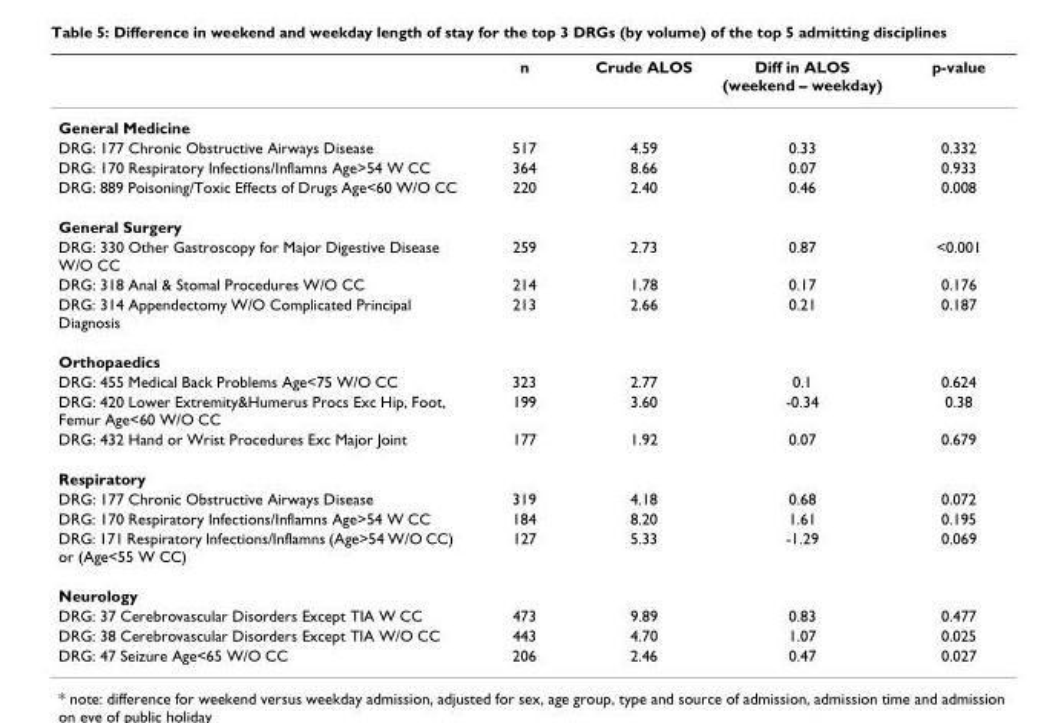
<table><thead><tr><td></td><td>n</td><td>Crude ALOS</td><td>Diff in ALOS (weekend – weekday)</td><td>p-value</td></tr></thead><tbody><tr><td colspan="5">General Medicine</td></tr><tr><td>DRG: 177 Chronic Obstructive Airways Disease</td><td>517</td><td>4.59</td><td>0.33</td><td>0.332</td></tr><tr><td>DRG: 170 Respiratory Infections/Inflamns Age&gt;54 W CC</td><td>364</td><td>8.66</td><td>0.07</td><td>0.933</td></tr><tr><td>DRG: 889 Poisoning/Toxic Effects of Drugs Age&lt;60 W/O CC</td><td>220</td><td>2.40</td><td>0.46</td><td>0.008</td></tr><tr><td colspan="5">General Surgery</td></tr><tr><td>DRG: 330 Other Gastroscopy for Major Digestive Disease W/O CC</td><td>259</td><td>2.73</td><td>0.87</td><td>&lt;0.001</td></tr><tr><td>DRG: 318 Anal &amp; Stomal Procedures W/O CC</td><td>214</td><td>1.78</td><td>0.17</td><td>0.176</td></tr><tr><td>DRG: 314 Appendectomy W/O Complicated Principal Diagnosis</td><td>213</td><td>2.66</td><td>0.21</td><td>0.187</td></tr><tr><td colspan="5">Orthopaedics</td></tr><tr><td>DRG: 455 Medical Back Problems Age&lt;75 W/O CC</td><td>323</td><td>2.77</td><td>0.1</td><td>0.624</td></tr><tr><td>DRG: 420 Lower Extremity&amp;Humerus Procs Exc Hip, Foot, Femur Age&lt;60 W/O CC</td><td>199</td><td>3.60</td><td>-0.34</td><td>0.38</td></tr><tr><td>DRG: 432 Hand or Wrist Procedures Exc Major Joint</td><td>177</td><td>1.92</td><td>0.07</td><td>0.679</td></tr><tr><td colspan="5">Respiratory</td></tr><tr><td>DRG: 177 Chronic Obstructive Airways Disease</td><td>319</td><td>4.18</td><td>0.68</td><td>0.072</td></tr><tr><td>DRG: 170 Respiratory Infections/Inflamns Age&gt;54 W CC</td><td>184</td><td>8.20</td><td>1.61</td><td>0.195</td></tr><tr><td>DRG: 171 Respiratory Infections/Inflamns (Age&gt;54 W/O CC) or (Age&lt;55 W CC)</td><td>127</td><td>5.33</td><td>-1.29</td><td>0.069</td></tr><tr><td colspan="5">Neurology</td></tr><tr><td>DRG: 37 Cerebrovascular Disorders Except TIA W CC</td><td>473</td><td>9.89</td><td>0.83</td><td>0.477</td></tr><tr><td>DRG: 38 Cerebrovascular Disorders Except TIA W/O CC</td><td>443</td><td>4.70</td><td>1.07</td><td>0.025</td></tr><tr><td>DRG: 47 Seizure Age&lt;65 W/O CC</td><td>206</td><td>2.46</td><td>0.47</td><td>0.027</td></tr></tbody></table>